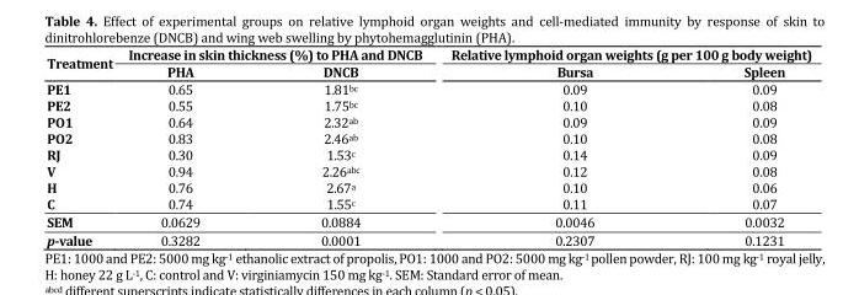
<table><thead><tr><td rowspan="2">Treatment</td><td colspan="2">Increase in skin thickness (%) to PHA and DNCB</td><td colspan="2">Relative lymphoid organ weights (g per 100 g body weight)</td></tr><tr><td>PHA</td><td>DNCB</td><td>Bursa</td><td>Spleen</td></tr></thead><tbody><tr><td>PE1</td><td>0.65</td><td>1.81<sup>bc</sup></td><td>0.09</td><td>0.09</td></tr><tr><td>PE2</td><td>0.55</td><td>1.75<sup>bc</sup></td><td>0.10</td><td>0.08</td></tr><tr><td>PO1</td><td>0.64</td><td>2.32<sup>ab</sup></td><td>0.09</td><td>0.09</td></tr><tr><td>PO2</td><td>0.83</td><td>2.46<sup>ab</sup></td><td>0.10</td><td>0.08</td></tr><tr><td>RJ</td><td>0.30</td><td>1.53<sup>c</sup></td><td>0.14</td><td>0.09</td></tr><tr><td>V</td><td>0.94</td><td>2.26abc</td><td>0.12</td><td>0.08</td></tr><tr><td>H</td><td>0.76</td><td>2.67<sup>a</sup></td><td>0.10</td><td>0.06</td></tr><tr><td>C</td><td>0.74</td><td>1.55<sup>c</sup></td><td>0.11</td><td>0.07</td></tr><tr><td>SEM</td><td>0.0629</td><td>0.0884</td><td>0.0046</td><td>0.0032</td></tr><tr><td>p-value</td><td>0.3282</td><td>0.0001</td><td>0.2307</td><td>0.1231</td></tr></tbody></table>